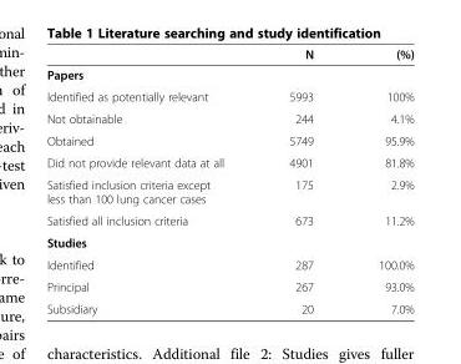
<table><thead><tr><td></td><td>N</td><td>(%)</td></tr></thead><tbody><tr><td colspan="3">Papers</td></tr><tr><td>Identified as potentially relevant</td><td>5993</td><td>100%</td></tr><tr><td>Not obtainable</td><td>244</td><td>4.1%</td></tr><tr><td>Obtained</td><td>5749</td><td>95.9%</td></tr><tr><td>Did not provide relevant data at all</td><td>4901</td><td>81.8%</td></tr><tr><td>Satisfied inclusion criteria except less than 100 lung cancer cases</td><td>175</td><td>2.9%</td></tr><tr><td>Satisfied all inclusion criteria</td><td>673</td><td>11.2%</td></tr><tr><td colspan="3">Studies</td></tr><tr><td>Identified</td><td>287</td><td>100.0%</td></tr><tr><td>Principal</td><td>267</td><td>93.0%</td></tr><tr><td>Subsidiary</td><td>20</td><td>7.0%</td></tr></tbody></table>